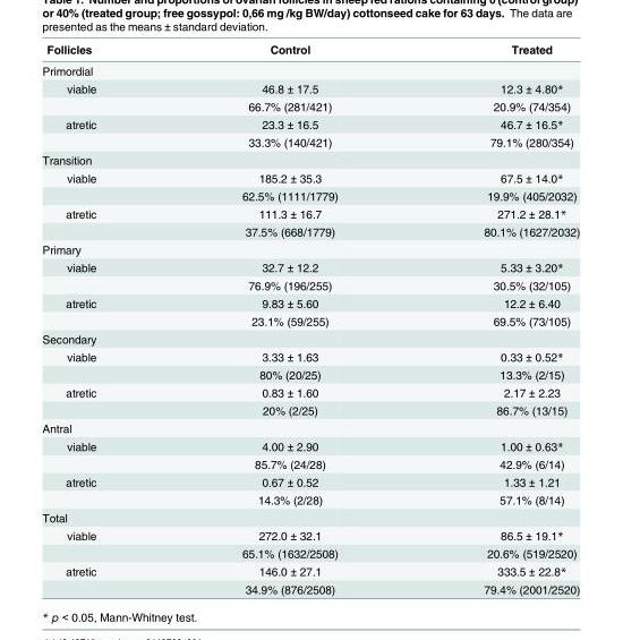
<table><thead><tr><td>Follicles</td><td>Control</td><td>Treated</td></tr></thead><tbody><tr><td colspan="3">Primordial</td></tr><tr><td rowspan="2">viable</td><td>46.8 ± 17.5</td><td>12.3 ± 4.80*</td></tr><tr><td>66.7% (281/421)</td><td>20.9% (74/354)</td></tr><tr><td rowspan="2">atretic</td><td>23.3 ± 16.5</td><td>46.7 ± 16.5*</td></tr><tr><td>33.3% (140/421)</td><td>79.1% (280/354)</td></tr><tr><td colspan="3">Transition</td></tr><tr><td rowspan="2">viable</td><td>185.2 ± 35.3</td><td>67.5 ± 14.0*</td></tr><tr><td>62.5% (1111/1779)</td><td>19.9% (405/2032)</td></tr><tr><td rowspan="2">atretic</td><td>111.3 ± 16.7</td><td>271.2 ± 28.1*</td></tr><tr><td>37.5% (668/1779)</td><td>80.1% (1627/2032)</td></tr><tr><td colspan="3">Primary</td></tr><tr><td rowspan="2">viable</td><td>32.7 ± 12.2</td><td>5.33 ± 3.20*</td></tr><tr><td>76.9% (196/255)</td><td>30.5% (32/105)</td></tr><tr><td rowspan="2">atretic</td><td>9.83 ± 5.60</td><td>12.2 ± 6.40</td></tr><tr><td>23.1% (59/255)</td><td>69.5% (73/105)</td></tr><tr><td colspan="3">Secondary</td></tr><tr><td rowspan="2">viable</td><td>3.33 ± 1.63</td><td>0.33 ± 0.52*</td></tr><tr><td>80% (20/25)</td><td>13.3% (2/15)</td></tr><tr><td rowspan="2">atretic</td><td>0.83 ± 1.60</td><td>2.17 ± 2.23</td></tr><tr><td>20% (2/25)</td><td>86.7% (13/15)</td></tr><tr><td colspan="3">Antral</td></tr><tr><td rowspan="2">viable</td><td>4.00 ± 2.90</td><td>1.00 ± 0.63*</td></tr><tr><td>85.7% (24/28)</td><td>42.9% (6/14)</td></tr><tr><td rowspan="2">atretic</td><td>0.67 ± 0.52</td><td>1.33 ± 1.21</td></tr><tr><td>14.3% (2/28)</td><td>57.1% (8/14)</td></tr><tr><td colspan="3">Total</td></tr><tr><td rowspan="2">viable</td><td>272.0 ± 32.1</td><td>86.5 ± 19.1*</td></tr><tr><td>65.1% (1632/2508)</td><td>20.6% (519/2520)</td></tr><tr><td rowspan="2">atretic</td><td>146.0 ± 27.1</td><td>333.5 ± 22.8*</td></tr><tr><td>34.9% (876/2508)</td><td>79.4% (2001/2520)</td></tr></tbody></table>